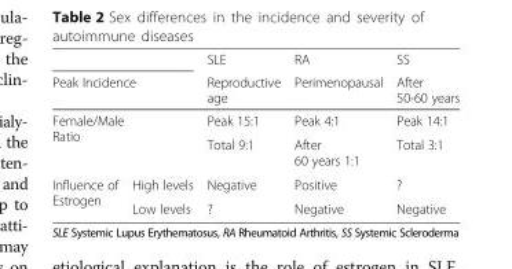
<table><thead><tr><td></td><td></td><td rowspan="2">SLE Reproductive age</td><td rowspan="2">RA Perimenopausal</td><td rowspan="2">SS After 50-60 years</td></tr><tr><td colspan="2">Peak Incidence</td></tr></thead><tbody><tr><td rowspan="2" colspan="2">Female/Male Ratio</td><td>Peak 15:1</td><td>Peak 4:1</td><td>Peak 14:1</td></tr><tr><td>Total 9:1</td><td>After 60 years 1:1</td><td>Total 3:1</td></tr><tr><td rowspan="2">Influence of Estrogen</td><td>High levels</td><td>Negative</td><td>Positive</td><td>?</td></tr><tr><td>Low levels</td><td>?</td><td>Negative</td><td>Negative</td></tr></tbody></table>